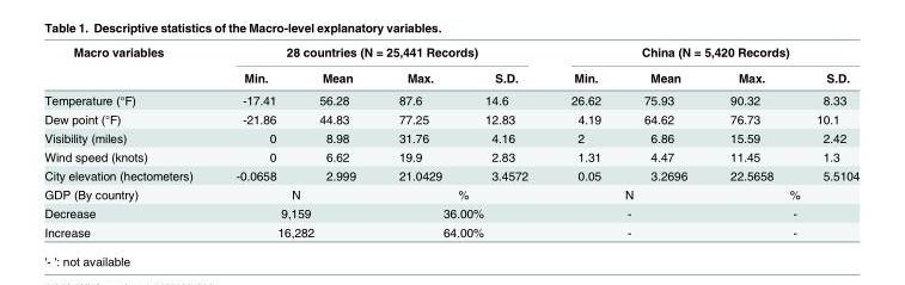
<table><thead><tr><td rowspan="2">Macro variables</td><td colspan="4">28 countries (N = 25,441 Records)</td><td colspan="4">China (N = 5,420 Records)</td></tr><tr><td>Min.</td><td>Mean</td><td>Max.</td><td>S.D.</td><td>Min.</td><td>Mean</td><td>Max.</td><td>S.D.</td></tr></thead><tbody><tr><td>Temperature (°F)</td><td>-17.41</td><td>56.28</td><td>87.6</td><td>14.6</td><td>26.62</td><td>75.93</td><td>90.32</td><td>8.33</td></tr><tr><td>Dew point (°F)</td><td>-21.86</td><td>44.83</td><td>77.25</td><td>12.83</td><td>4.19</td><td>64.62</td><td>76.73</td><td>10.1</td></tr><tr><td>Visibility (miles)</td><td>0</td><td>8.98</td><td>31.76</td><td>4.16</td><td>2</td><td>6.86</td><td>15.59</td><td>2.42</td></tr><tr><td>Wind speed (knots)</td><td>0</td><td>6.62</td><td>19.9</td><td>2.83</td><td>1.31</td><td>4.47</td><td>11.45</td><td>1.3</td></tr><tr><td>City elevation (hectometers)</td><td>-0.0658</td><td>2.999</td><td>21.0429</td><td>3.4572</td><td>0.05</td><td>3.2696</td><td>22.5658</td><td>5.5104</td></tr><tr><td>GDP (By country)</td><td colspan="2">N</td><td colspan="2">%</td><td colspan="2">N</td><td colspan="2">%</td></tr><tr><td>Decrease</td><td colspan="2">9,159</td><td colspan="2">36.00%</td><td colspan="2">-</td><td colspan="2">-</td></tr><tr><td>Increase</td><td colspan="2">16,282</td><td colspan="2">64.00%</td><td colspan="2">-</td><td colspan="2">-</td></tr></tbody></table>